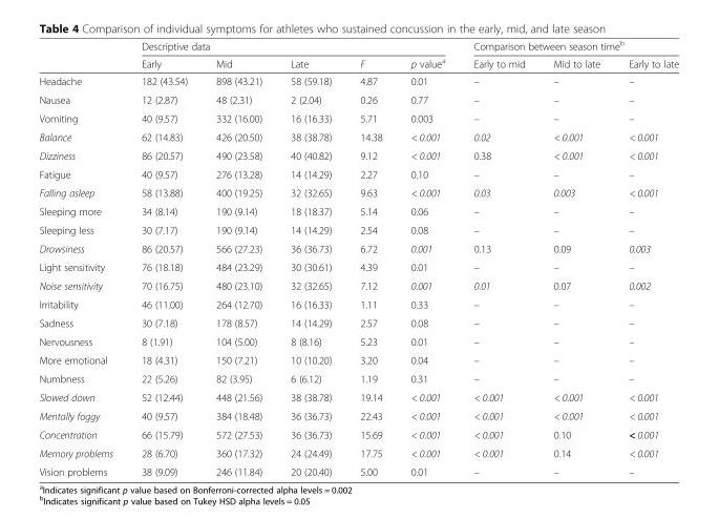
<table><thead><tr><td rowspan="2"></td><td colspan="5">Descriptive data</td><td colspan="3">Comparison between season time<sup>b</sup></td></tr><tr><td>Early</td><td>Mid</td><td>Late</td><td>F</td><td>p value<sup>a</sup></td><td>Early to mid</td><td>Mid to late</td><td>Early to late</td></tr></thead><tbody><tr><td>Headache</td><td>182 (43.54)</td><td>898 (43.21)</td><td>58 (59.18)</td><td>4.87</td><td>0.01</td><td>–</td><td>–</td><td>–</td></tr><tr><td>Nausea</td><td>12 (2.87)</td><td>48 (2.31)</td><td>2 (2.04)</td><td>0.26</td><td>0.77</td><td>–</td><td>–</td><td>–</td></tr><tr><td>Vomiting</td><td>40 (9.57)</td><td>332 (16.00)</td><td>16 (16.33)</td><td>5.71</td><td>0.003</td><td>–</td><td>–</td><td>–</td></tr><tr><td>Balance</td><td>62 (14.83)</td><td>426 (20.50)</td><td>38 (38.78)</td><td>14.38</td><td>&lt; 0.001</td><td>0.02</td><td>&lt; 0.001</td><td>&lt; 0.001</td></tr><tr><td>Dizziness</td><td>86 (20.57)</td><td>490 (23.58)</td><td>40 (40.82)</td><td>9.12</td><td>&lt; 0.001</td><td>0.38</td><td>&lt; 0.001</td><td>&lt; 0.001</td></tr><tr><td>Fatigue</td><td>40 (9.57)</td><td>276 (13.28)</td><td>14 (14.29)</td><td>2.27</td><td>0.10</td><td>–</td><td>–</td><td>–</td></tr><tr><td>Falling asleep</td><td>58 (13.88)</td><td>400 (19.25)</td><td>32 (32.65)</td><td>9.63</td><td>&lt; 0.001</td><td>0.03</td><td>0.003</td><td>&lt; 0.001</td></tr><tr><td>Sleeping more</td><td>34 (8.14)</td><td>190 (9.14)</td><td>18 (18.37)</td><td>5.14</td><td>0.06</td><td>–</td><td>–</td><td>–</td></tr><tr><td>Sleeping less</td><td>30 (7.17)</td><td>190 (9.14)</td><td>14 (14.29)</td><td>2.54</td><td>0.08</td><td>–</td><td>–</td><td>–</td></tr><tr><td>Drowsiness</td><td>86 (20.57)</td><td>566 (27.23)</td><td>36 (36.73)</td><td>6.72</td><td>0.001</td><td>0.13</td><td>0.09</td><td>0.003</td></tr><tr><td>Light sensitivity</td><td>76 (18.18)</td><td>484 (23.29)</td><td>30 (30.61)</td><td>4.39</td><td>0.01</td><td>–</td><td>–</td><td>–</td></tr><tr><td>Noise sensitivity</td><td>70 (16.75)</td><td>480 (23.10)</td><td>32 (32.65)</td><td>7.12</td><td>0.001</td><td>0.01</td><td>0.07</td><td>0.002</td></tr><tr><td>Irritability</td><td>46 (11.00)</td><td>264 (12.70)</td><td>16 (16.33)</td><td>1.11</td><td>0.33</td><td>–</td><td>–</td><td>–</td></tr><tr><td>Sadness</td><td>30 (7.18)</td><td>178 (8.57)</td><td>14 (14.29)</td><td>2.57</td><td>0.08</td><td>–</td><td>–</td><td>–</td></tr><tr><td>Nervousness</td><td>8 (1.91)</td><td>104 (5.00)</td><td>8 (8.16)</td><td>5.23</td><td>0.01</td><td>–</td><td>–</td><td>–</td></tr><tr><td>More emotional</td><td>18 (4.31)</td><td>150 (7.21)</td><td>10 (10.20)</td><td>3.20</td><td>0.04</td><td>–</td><td>–</td><td>–</td></tr><tr><td>Numbness</td><td>22 (5.26)</td><td>82 (3.95)</td><td>6 (6.12)</td><td>1.19</td><td>0.31</td><td>–</td><td>–</td><td>–</td></tr><tr><td>Slowed down</td><td>52 (12.44)</td><td>448 (21.56)</td><td>38 (38.78)</td><td>19.14</td><td>&lt; 0.001</td><td>&lt; 0.001</td><td>&lt; 0.001</td><td>&lt; 0.001</td></tr><tr><td>Mentally foggy</td><td>40 (9.57)</td><td>384 (18.48)</td><td>36 (36.73)</td><td>22.43</td><td>&lt; 0.001</td><td>&lt; 0.001</td><td>&lt; 0.001</td><td>&lt; 0.001</td></tr><tr><td>Concentration</td><td>66 (15.79)</td><td>572 (27.53)</td><td>36 (36.73)</td><td>15.69</td><td>&lt; 0.001</td><td>&lt; 0.001</td><td>0.10</td><td>&lt; 0.001</td></tr><tr><td>Memory problems</td><td>28 (6.70)</td><td>360 (17.32)</td><td>24 (24.49)</td><td>17.75</td><td>&lt; 0.001</td><td>&lt; 0.001</td><td>0.14</td><td>&lt; 0.001</td></tr><tr><td>Vision problems</td><td>38 (9.09)</td><td>246 (11.84)</td><td>20 (20.40)</td><td>5.00</td><td>0.01</td><td>–</td><td>–</td><td>–</td></tr></tbody></table>